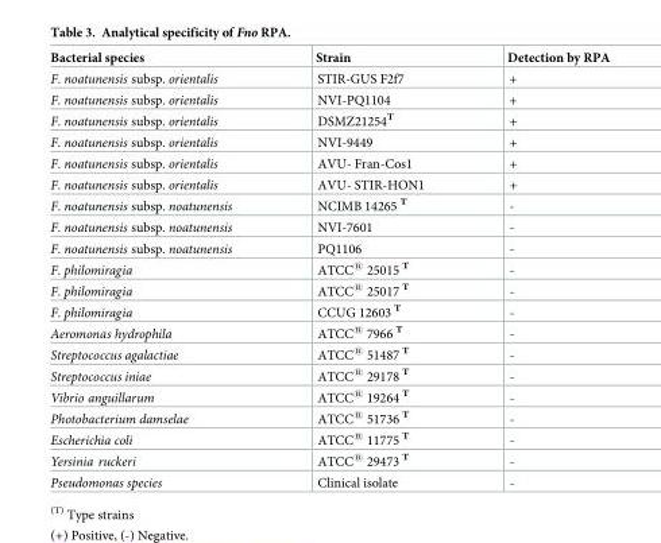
<table><thead><tr><td>Bacterial species</td><td>Strain</td><td>Detection by RPA</td></tr></thead><tbody><tr><td>F. noatunensis subsp. orientalis</td><td>STIR-GUS F2f7</td><td>+</td></tr><tr><td>F. noatunensis subsp. orientalis</td><td>NVI-PQ1104</td><td>+</td></tr><tr><td>F. noatunensis subsp. orientalis</td><td>DSMZ21254<sup>T</sup></td><td>+</td></tr><tr><td>F. noatunensis subsp. orientalis</td><td>NVI-9449</td><td>+</td></tr><tr><td>F. noatunensis subsp. orientalis</td><td>AVU- Fran-Cos1</td><td>+</td></tr><tr><td>F. noatunensis subsp. orientalis</td><td>AVU- STIR-HON1</td><td>+</td></tr><tr><td>F. noatunensis subsp. noatunensis</td><td>NCIMB 14265 <sup>T</sup></td><td>-</td></tr><tr><td>F. noatunensis subsp. noatunensis</td><td>NVI-7601</td><td>-</td></tr><tr><td>F. noatunensis subsp. noatunensis</td><td>PQ1106</td><td>-</td></tr><tr><td>F. philomiragia</td><td>ATCC<sup>®</sup> 25015 <sup>T</sup></td><td>-</td></tr><tr><td>F. philomiragia</td><td>ATCC<sup>®</sup> 25017 <sup>T</sup></td><td>-</td></tr><tr><td>F. philomiragia</td><td>CCUG 12603 <sup>T</sup></td><td>-</td></tr><tr><td>Aeromonas hydrophila</td><td>ATCC<sup>®</sup> 7966 <sup>T</sup></td><td>-</td></tr><tr><td>Streptococcus agalactiae</td><td>ATCC<sup>®</sup> 51487 <sup>T</sup></td><td>-</td></tr><tr><td>Streptococcus iniae</td><td>ATCC<sup>®</sup> 29178 <sup>T</sup></td><td>-</td></tr><tr><td>Vibrio anguillarum</td><td>ATCC<sup>®</sup> 19264 <sup>T</sup></td><td>-</td></tr><tr><td>Photobacterium damselae</td><td>ATCC<sup>®</sup> 51736 <sup>T</sup></td><td>-</td></tr><tr><td>Escherichia coli</td><td>ATCC<sup>®</sup> 11775 <sup>T</sup></td><td>-</td></tr><tr><td>Yersinia ruckeri</td><td>ATCC<sup>®</sup> 29473 <sup>T</sup></td><td>-</td></tr><tr><td>Pseudomonas species</td><td>Clinical isolate</td><td>-</td></tr></tbody></table>